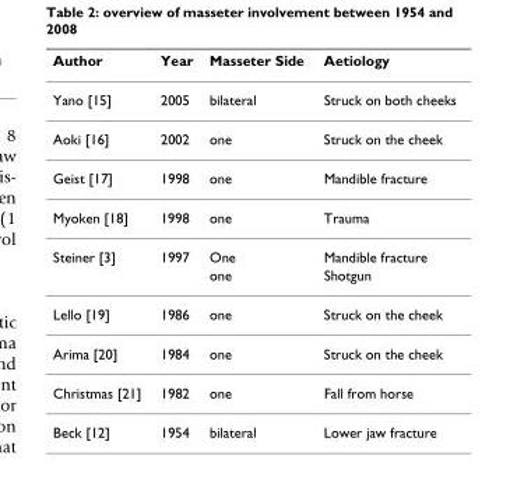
<table><thead><tr><td>Author</td><td>Year</td><td>Masseter Side</td><td>Aetiology</td></tr></thead><tbody><tr><td>Yano [15]</td><td>2005</td><td>bilateral</td><td>Struck on both cheeks</td></tr><tr><td>Aoki [16]</td><td>2002</td><td>one</td><td>Struck on the cheek</td></tr><tr><td>Geist [17]</td><td>1998</td><td>one</td><td>Mandible fracture</td></tr><tr><td>Myoken [18]</td><td>1998</td><td>one</td><td>Trauma</td></tr><tr><td rowspan="2">Steiner [3]</td><td>1997</td><td>One</td><td>Mandible fracture</td></tr><tr><td></td><td>one</td><td>Shotgun</td></tr><tr><td>Lello [19]</td><td>1986</td><td>one</td><td>Struck on the cheek</td></tr><tr><td>Arima [20]</td><td>1984</td><td>one</td><td>Struck on the cheek</td></tr><tr><td>Christmas [21]</td><td>1982</td><td>one</td><td>Fall from horse</td></tr><tr><td>Beck [12]</td><td>1954</td><td>bilateral</td><td>Lower jaw fracture</td></tr></tbody></table>